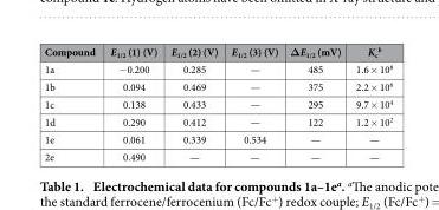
<table><thead><tr><td>Compound</td><td>E<sub>1/2</sub> (1) (V)</td><td>E<sub>1/2</sub> (2) (V)</td><td>E<sub>1/2</sub> (3) (V)</td><td>ΔE<sub>1/2</sub> (mV)</td><td>K<sub>c</sub> <sup>b</sup></td></tr></thead><tbody><tr><td>1a</td><td>− 0.200</td><td>0.285</td><td>—</td><td>485</td><td>1.6 × 10<sup>8</sup></td></tr><tr><td>1b</td><td>0.094</td><td>0.469</td><td>—</td><td>375</td><td>2.2 × 10<sup>6</sup></td></tr><tr><td>1c</td><td>0.138</td><td>0.433</td><td>—</td><td>295</td><td>9.7 × 10<sup>4</sup></td></tr><tr><td>1d</td><td>0.290</td><td>0.412</td><td>—</td><td>122</td><td>1.2 × 10<sup>2</sup></td></tr><tr><td>1e</td><td>0.061</td><td>0.339</td><td>0.534</td><td>—</td><td>—</td></tr><tr><td>2e</td><td>0.490</td><td>—</td><td>—</td><td>—</td><td>—</td></tr></tbody></table>